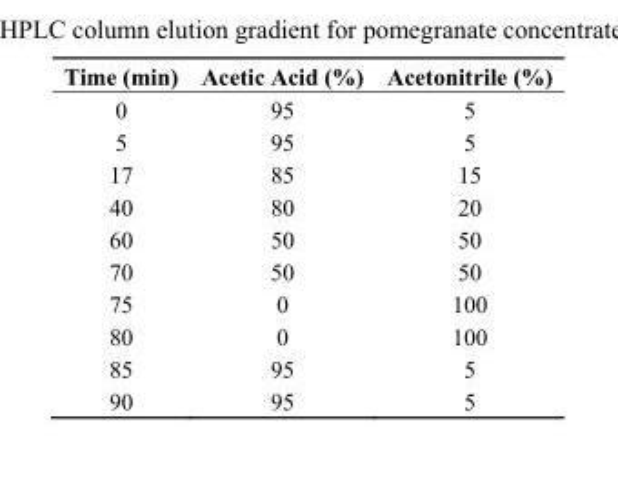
<table><thead><tr><td>Time (min)</td><td>Acetic Acid (%)</td><td>Acetonitrile (%)</td></tr></thead><tbody><tr><td>0</td><td>95</td><td>5</td></tr><tr><td>5</td><td>95</td><td>5</td></tr><tr><td>17</td><td>85</td><td>15</td></tr><tr><td>40</td><td>80</td><td>20</td></tr><tr><td>60</td><td>50</td><td>50</td></tr><tr><td>70</td><td>50</td><td>50</td></tr><tr><td>75</td><td>0</td><td>100</td></tr><tr><td>80</td><td>0</td><td>100</td></tr><tr><td>85</td><td>95</td><td>5</td></tr><tr><td>90</td><td>95</td><td>5</td></tr></tbody></table>